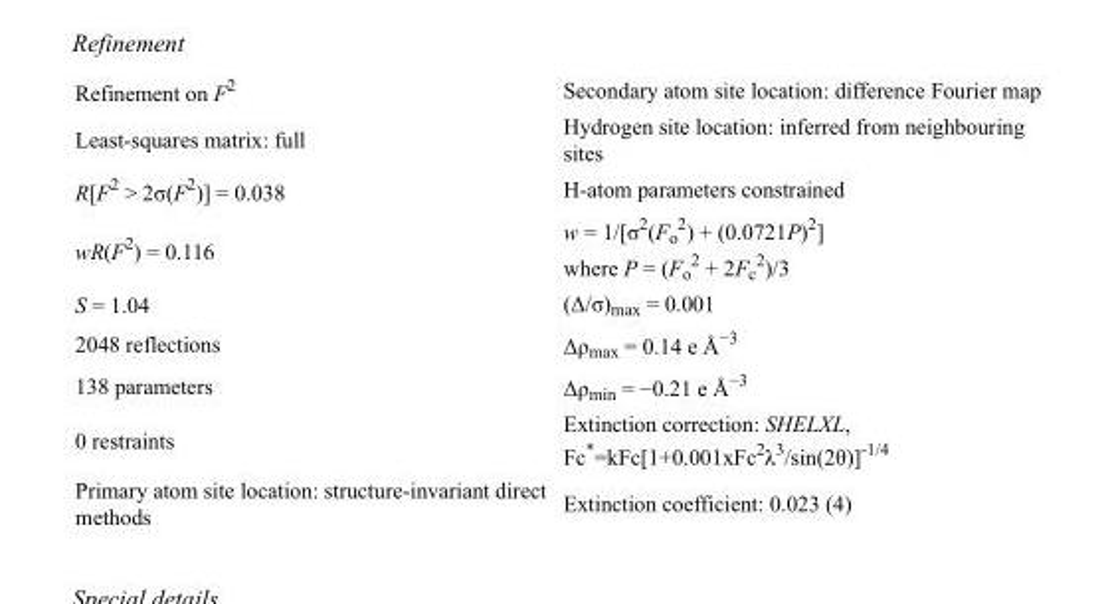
<table><tbody><tr><td>Refinement on F<sup>2</sup></td><td>Secondary atom site location: difference Fourier map</td></tr><tr><td>Least-squares matrix: full</td><td>Hydrogen site location: inferred from neighbouring sites</td></tr><tr><td>R[F<sup>2</sup> &gt; 2σ(F<sup>2</sup>)] = 0.038</td><td>H-atom parameters constrained</td></tr><tr><td>wR(F<sup>2</sup>) = 0.116</td><td>w = 1/[σ<sup>2</sup>(F<sub>o</sub> <sup>2</sup>) + (0.0721P)<sup>2</sup>] where P = (F<sub>o</sub> <sup>2</sup> + 2F<sub>c</sub> <sup>2</sup>)/3</td></tr><tr><td>S = 1.04</td><td>(Δ/σ)<sub>max</sub> = 0.001</td></tr><tr><td>2048 reflections</td><td>Δρ<sub>max</sub> = 0.14 e Å<sup>−3</sup></td></tr><tr><td>138 parameters</td><td>Δρ<sub>min</sub> = −0.21 e Å<sup>−3</sup></td></tr><tr><td>0 restraints</td><td>Extinction correction: SHELXL, Fc*=kFc[1+0.001xFc<sup>2</sup>λ<sup>3</sup>/sin(2θ)]<sup>-1/4</sup></td></tr><tr><td>Primary atom site location: structure-invariant direct methods</td><td>Extinction coefficient: 0.023 (4)</td></tr></tbody></table>